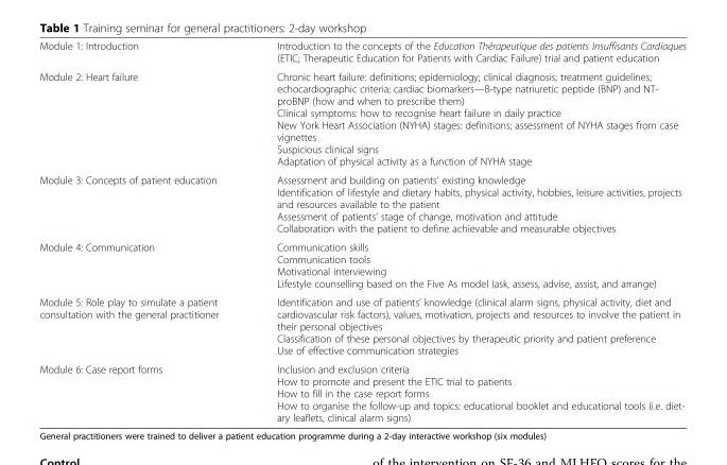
<table><tbody><tr><td>Module 1: Introduction</td><td>Introduction to the concepts of the Education Thérapeutique des patients Insuffisants Cardiaques (ETIC; Therapeutic Education for Patients with Cardiac Failure) trial and patient education</td></tr><tr><td>Module 2: Heart failure</td><td>Chronic heart failure: definitions; epidemiology; clinical diagnosis; treatment guidelines; echocardiographic criteria; cardiac biomarkers—B-type natriuretic peptide (BNP) and NT- proBNP (how and when to prescribe them) Clinical symptoms: how to recognise heart failure in daily practice New York Heart Association (NYHA) stages: definitions; assessment of NYHA stages from case vignettes Suspicious clinical signs Adaptation of physical activity as a function of NYHA stage</td></tr><tr><td>Module 3: Concepts of patient education</td><td>Assessment and building on patients’ existing knowledge Identification of lifestyle and dietary habits, physical activity, hobbies, leisure activities, projects and resources available to the patient Assessment of patients’ stage of change, motivation and attitude Collaboration with the patient to define achievable and measurable objectives</td></tr><tr><td>Module 4: Communication</td><td>Communication skills Communication tools Motivational interviewing Lifestyle counselling based on the Five As model (ask, assess, advise, assist, and arrange)</td></tr><tr><td>Module 5: Role play to simulate a patient consultation with the general practitioner</td><td>Identification and use of patients’ knowledge (clinical alarm signs, physical activity, diet and cardiovascular risk factors), values, motivation, projects and resources to involve the patient in their personal objectives Classification of these personal objectives by therapeutic priority and patient preference Use of effective communication strategies</td></tr><tr><td>Module 6: Case report forms</td><td>Inclusion and exclusion criteria How to promote and present the ETIC trial to patients How to fill in the case report forms How to organise the follow-up and topics: educational booklet and educational tools (i.e. diet- ary leaflets, clinical alarm signs)</td></tr></tbody></table>